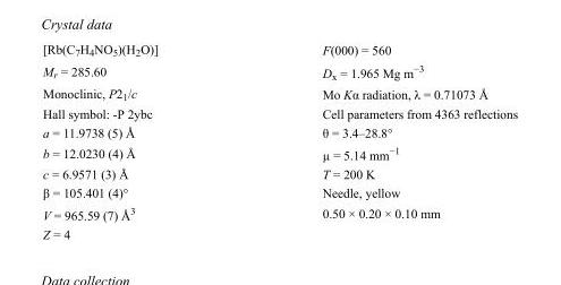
<table><tbody><tr><td>[Rb(C<sub>7</sub>H<sub>4</sub>NO<sub>5</sub>)(H<sub>2</sub>O)]</td><td>F(000) = 560</td></tr><tr><td>M<sub>r</sub> = 285.60</td><td>D<sub>x</sub> = 1.965 Mg m<sup>−3</sup></td></tr><tr><td>Monoclinic, P2<sub>1</sub>/c</td><td>Mo Kα radiation, λ = 0.71073 Å</td></tr><tr><td>Hall symbol: -P 2ybc</td><td>Cell parameters from 4363 reflections</td></tr><tr><td>a = 11.9738 (5) Å</td><td>θ = 3.4–28.8°</td></tr><tr><td>b = 12.0230 (4) Å</td><td>µ = 5.14 mm<sup>−1</sup></td></tr><tr><td>c = 6.9571 (3) Å</td><td>T = 200 K</td></tr><tr><td>β = 105.401 (4)°</td><td>Needle, yellow</td></tr><tr><td>V = 965.59 (7) Å<sup>3</sup></td><td>0.50 × 0.20 × 0.10 mm</td></tr><tr><td>Z = 4</td><td></td></tr></tbody></table>